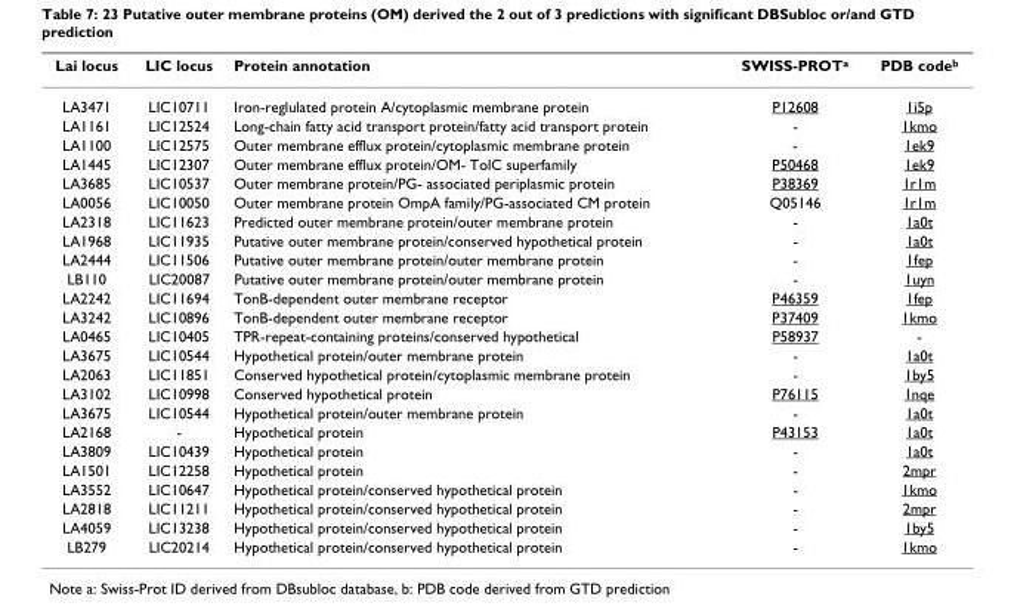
<table><thead><tr><td>Lai locus</td><td>LIC locus</td><td>Protein annotation</td><td>SWISS-PROT<sup>a</sup></td><td>PDB code<sup>b</sup></td></tr></thead><tbody><tr><td>LA3471</td><td>LIC10711</td><td>Iron-reglulated protein A/cytoplasmic membrane protein</td><td>P12608</td><td>1i5p</td></tr><tr><td>LA1161</td><td>LIC12524</td><td>Long-chain fatty acid transport protein/fatty acid transport protein</td><td>-</td><td>1kmo</td></tr><tr><td>LA1100</td><td>LIC12575</td><td>Outer membrane efflux protein/cytoplasmic membrane protein</td><td>-</td><td>1ek9</td></tr><tr><td>LA1445</td><td>LIC12307</td><td>Outer membrane efflux protein/OM- TolC superfamily</td><td>P50468</td><td>1ek9</td></tr><tr><td>LA3685</td><td>LIC10537</td><td>Outer membrane protein/PG- associated periplasmic protein</td><td>P38369</td><td>1r1m</td></tr><tr><td>LA0056</td><td>LIC10050</td><td>Outer membrane protein OmpA family/PG-associated CM protein</td><td>Q05146</td><td>1r1m</td></tr><tr><td>LA2318</td><td>LIC11623</td><td>Predicted outer membrane protein/outer membrane protein</td><td>-</td><td>1a0t</td></tr><tr><td>LA1968</td><td>LIC11935</td><td>Putative outer membrane protein/conserved hypothetical protein</td><td>-</td><td>1a0t</td></tr><tr><td>LA2444</td><td>LIC11506</td><td>Putative outer membrane protein/outer membrane protein</td><td>-</td><td>1fep</td></tr><tr><td>LB110</td><td>LIC20087</td><td>Putative outer membrane protein/outer membrane protein</td><td>-</td><td>1uyn</td></tr><tr><td>LA2242</td><td>LIC11694</td><td>TonB-dependent outer membrane receptor</td><td>P46359</td><td>1fep</td></tr><tr><td>LA3242</td><td>LIC10896</td><td>TonB-dependent outer membrane receptor</td><td>P37409</td><td>1kmo</td></tr><tr><td>LA0465</td><td>LIC10405</td><td>TPR-repeat-containing proteins/conserved hypothetical</td><td>P58937</td><td>-</td></tr><tr><td>LA3675</td><td>LIC10544</td><td>Hypothetical protein/outer membrane protein</td><td>-</td><td>1a0t</td></tr><tr><td>LA2063</td><td>LIC11851</td><td>Conserved hypothetical protein/cytoplasmic membrane protein</td><td>-</td><td>1by5</td></tr><tr><td>LA3102</td><td>LIC10998</td><td>Conserved hypothetical protein</td><td>P76115</td><td>1nqe</td></tr><tr><td>LA3675</td><td>LIC10544</td><td>Hypothetical protein/outer membrane protein</td><td>-</td><td>1a0t</td></tr><tr><td>LA2168</td><td>-</td><td>Hypothetical protein</td><td>P43153</td><td>1a0t</td></tr><tr><td>LA3809</td><td>LIC10439</td><td>Hypothetical protein</td><td>-</td><td>1a0t</td></tr><tr><td>LA1501</td><td>LIC12258</td><td>Hypothetical protein</td><td>-</td><td>2mpr</td></tr><tr><td>LA3552</td><td>LIC10647</td><td>Hypothetical protein/conserved hypothetical protein</td><td>-</td><td>1kmo</td></tr><tr><td>LA2818</td><td>LIC11211</td><td>Hypothetical protein/conserved hypothetical protein</td><td>-</td><td>2mpr</td></tr><tr><td>LA4059</td><td>LIC13238</td><td>Hypothetical protein/conserved hypothetical protein</td><td>-</td><td>1by5</td></tr><tr><td>LB279</td><td>LIC20214</td><td>Hypothetical protein/conserved hypothetical protein</td><td>-</td><td>1kmo</td></tr></tbody></table>